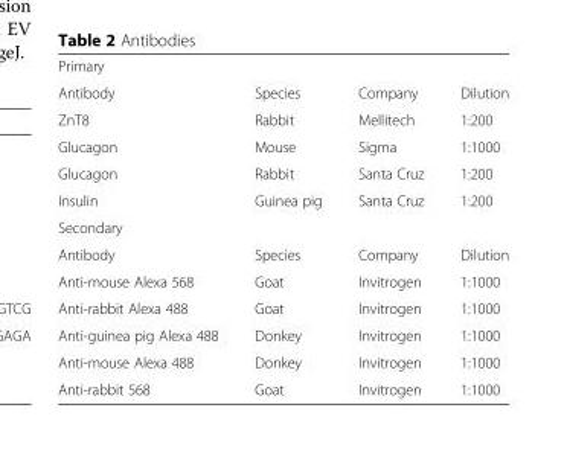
<table><tbody><tr><td colspan="4">Primary</td></tr><tr><td>Antibody</td><td>Species</td><td>Company</td><td>Dilution</td></tr><tr><td>ZnT8</td><td>Rabbit</td><td>Mellitech</td><td>1:200</td></tr><tr><td>Glucagon</td><td>Mouse</td><td>Sigma</td><td>1:1000</td></tr><tr><td>Glucagon</td><td>Rabbit</td><td>Santa Cruz</td><td>1:200</td></tr><tr><td>Insulin</td><td>Guinea pig</td><td>Santa Cruz</td><td>1:200</td></tr><tr><td colspan="4">Secondary</td></tr><tr><td>Antibody</td><td>Species</td><td>Company</td><td>Dilution</td></tr><tr><td>Anti-mouse Alexa 568</td><td>Goat</td><td>Invitrogen</td><td>1:1000</td></tr><tr><td>Anti-rabbit Alexa 488</td><td>Goat</td><td>Invitrogen</td><td>1:1000</td></tr><tr><td>Anti-guinea pig Alexa 488</td><td>Donkey</td><td>Invitrogen</td><td>1:1000</td></tr><tr><td>Anti-mouse Alexa 488</td><td>Donkey</td><td>Invitrogen</td><td>1:1000</td></tr><tr><td>Anti-rabbit 568</td><td>Goat</td><td>Invitrogen</td><td>1:1000</td></tr></tbody></table>